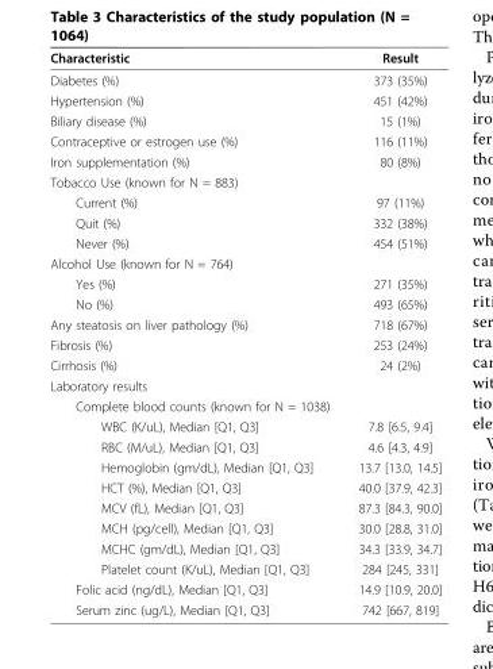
<table><thead><tr><td>Characteristic</td><td>Result</td></tr></thead><tbody><tr><td>Diabetes (%)</td><td>373 (35%)</td></tr><tr><td>Hypertension (%)</td><td>451 (42%)</td></tr><tr><td>Biliary disease (%)</td><td>15 (1%)</td></tr><tr><td>Contraceptive or estrogen use (%)</td><td>116 (11%)</td></tr><tr><td>Iron supplementation (%)</td><td>80 (8%)</td></tr><tr><td colspan="2">Tobacco Use (known for N = 883)</td></tr><tr><td>Current (%)</td><td>97 (11%)</td></tr><tr><td>Quit (%)</td><td>332 (38%)</td></tr><tr><td>Never (%)</td><td>454 (51%)</td></tr><tr><td colspan="2">Alcohol Use (known for N = 764)</td></tr><tr><td>Yes (%)</td><td>271 (35%)</td></tr><tr><td>No (%)</td><td>493 (65%)</td></tr><tr><td>Any steatosis on liver pathology (%)</td><td>718 (67%)</td></tr><tr><td>Fibrosis (%)</td><td>253 (24%)</td></tr><tr><td>Cirrhosis (%)</td><td>24 (2%)</td></tr><tr><td colspan="2">Laboratory results</td></tr><tr><td colspan="2">Complete blood counts (known for N = 1038)</td></tr><tr><td>WBC (K/uL), Median [Q1, Q3]</td><td>7.8 [6.5, 9.4]</td></tr><tr><td>RBC (M/uL), Median [Q1, Q3]</td><td>4.6 [4.3, 4.9]</td></tr><tr><td>Hemoglobin (gm/dL), Median [Q1, Q3]</td><td>13.7 [13.0, 14.5]</td></tr><tr><td>HCT (%), Median [Q1, Q3]</td><td>40.0 [37.9, 42.3]</td></tr><tr><td>MCV (fL), Median [Q1, Q3]</td><td>87.3 [84.3, 90.0]</td></tr><tr><td>MCH (pg/cell), Median [Q1, Q3]</td><td>30.0 [28.8, 31.0]</td></tr><tr><td>MCHC (gm/dL), Median [Q1, Q3]</td><td>34.3 [33.9, 34.7]</td></tr><tr><td>Platelet count (K/uL), Median [Q1, Q3]</td><td>284 [245, 331]</td></tr><tr><td>Folic acid (ng/dL), Median [Q1, Q3]</td><td>14.9 [10.9, 20.0]</td></tr><tr><td>Serum zinc (ug/L), Median [Q1, Q3]</td><td>742 [667, 819]</td></tr></tbody></table>